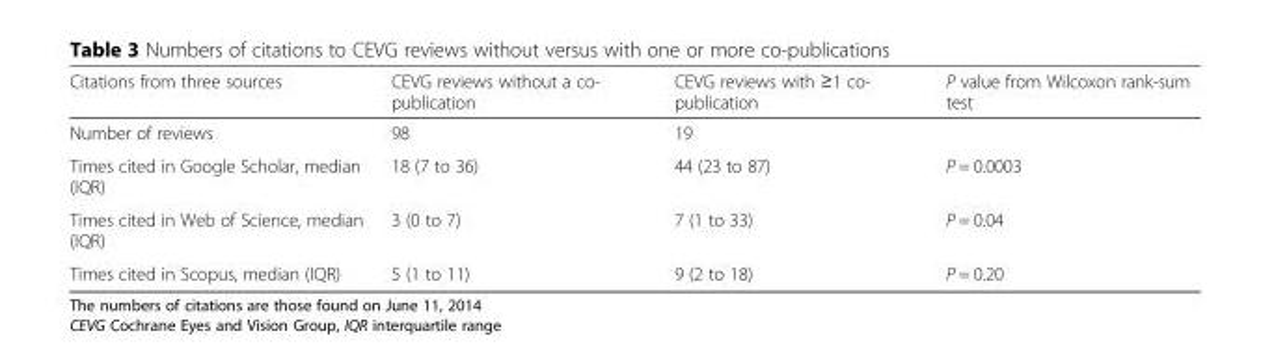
<table><thead><tr><td>Citations from three sources</td><td>CEVG reviews without a co- publication</td><td>CEVG reviews with ≥1 co- publication</td><td>P value from Wilcoxon rank-sum test</td></tr></thead><tbody><tr><td>Number of reviews</td><td>98</td><td>19</td><td></td></tr><tr><td>Times cited in Google Scholar, median (IQR)</td><td>18 (7 to 36)</td><td>44 (23 to 87)</td><td>P = 0.0003</td></tr><tr><td>Times cited in Web of Science, median (IQR)</td><td>3 (0 to 7)</td><td>7 (1 to 33)</td><td>P = 0.04</td></tr><tr><td>Times cited in Scopus, median (IQR)</td><td>5 (1 to 11)</td><td>9 (2 to 18)</td><td>P = 0.20</td></tr></tbody></table>